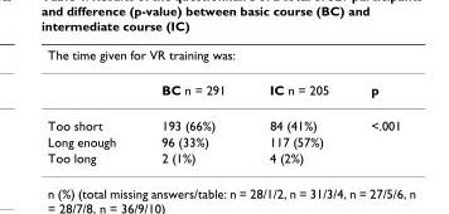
<table><thead><tr><td colspan="4">The time given for VR training was:</td></tr><tr><td></td><td>BC n = 291</td><td>IC n = 205</td><td>p</td></tr></thead><tbody><tr><td>Too short</td><td>193 (66%)</td><td>84 (41%)</td><td>&lt;.001</td></tr><tr><td>Long enough</td><td>96 (33%)</td><td>117 (57%)</td><td></td></tr><tr><td>Too long</td><td>2 (1%)</td><td>4 (2%)</td><td></td></tr></tbody></table>